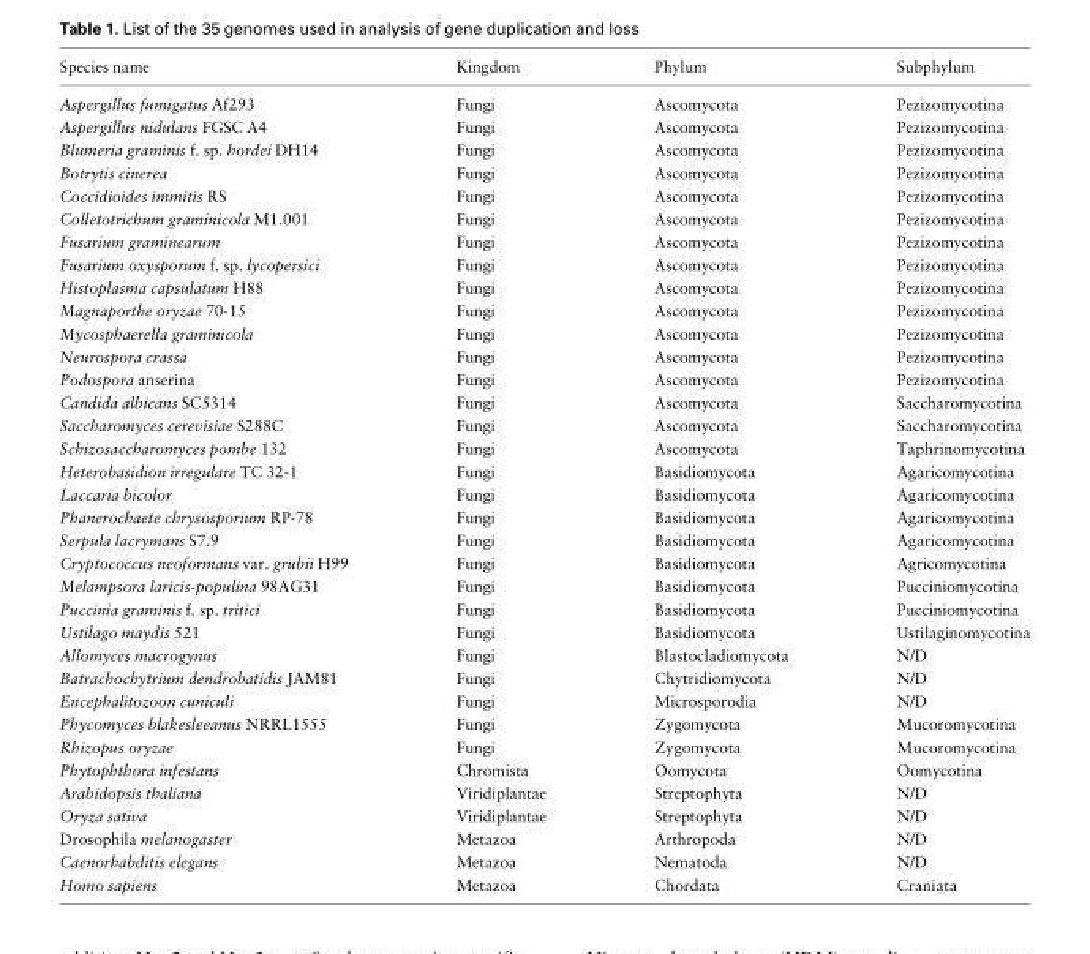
<table><thead><tr><td>Species name</td><td>Kingdom</td><td>Phylum</td><td>Subphylum</td></tr></thead><tbody><tr><td>Aspergillus fumigatus Af293</td><td>Fungi</td><td>Ascomycota</td><td>Pezizomycotina</td></tr><tr><td>Aspergillus nidulans FGSC A4</td><td>Fungi</td><td>Ascomycota</td><td>Pezizomycotina</td></tr><tr><td>Blumeria graminis f. sp. hordei DH14</td><td>Fungi</td><td>Ascomycota</td><td>Pezizomycotina</td></tr><tr><td>Botrytis cinerea</td><td>Fungi</td><td>Ascomycota</td><td>Pezizomycotina</td></tr><tr><td>Coccidioides immitis RS</td><td>Fungi</td><td>Ascomycota</td><td>Pezizomycotina</td></tr><tr><td>Colletotrichum graminicola M1.001</td><td>Fungi</td><td>Ascomycota</td><td>Pezizomycotina</td></tr><tr><td>Fusarium graminearum</td><td>Fungi</td><td>Ascomycota</td><td>Pezizomycotina</td></tr><tr><td>Fusarium oxysporum f. sp. lycopersici</td><td>Fungi</td><td>Ascomycota</td><td>Pezizomycotina</td></tr><tr><td>Histoplasma capsulatum H88</td><td>Fungi</td><td>Ascomycota</td><td>Pezizomycotina</td></tr><tr><td>Magnaporthe oryzae 70-15</td><td>Fungi</td><td>Ascomycota</td><td>Pezizomycotina</td></tr><tr><td>Mycosphaerella graminicola</td><td>Fungi</td><td>Ascomycota</td><td>Pezizomycotina</td></tr><tr><td>Neurospora crassa</td><td>Fungi</td><td>Ascomycota</td><td>Pezizomycotina</td></tr><tr><td>Podospora anserina</td><td>Fungi</td><td>Ascomycota</td><td>Pezizomycotina</td></tr><tr><td>Candida albicans SC5314</td><td>Fungi</td><td>Ascomycota</td><td>Saccharomycotina</td></tr><tr><td>Saccharomyces cerevisiae S288C</td><td>Fungi</td><td>Ascomycota</td><td>Saccharomycotina</td></tr><tr><td>Schizosaccharomyces pombe 132</td><td>Fungi</td><td>Ascomycota</td><td>Taphrinomycotina</td></tr><tr><td>Heterobasidion irregulare TC 32-1</td><td>Fungi</td><td>Basidiomycota</td><td>Agaricomycotina</td></tr><tr><td>Laccaria bicolor</td><td>Fungi</td><td>Basidiomycota</td><td>Agaricomycotina</td></tr><tr><td>Phanerochaete chrysosporium RP-78</td><td>Fungi</td><td>Basidiomycota</td><td>Agaricomycotina</td></tr><tr><td>Serpula lacrymans S7.9</td><td>Fungi</td><td>Basidiomycota</td><td>Agaricomycotina</td></tr><tr><td>Cryptococcus neoformans var. grubii H99</td><td>Fungi</td><td>Basidiomycota</td><td>Agricomycotina</td></tr><tr><td>Melampsora laricis-populina 98AG31</td><td>Fungi</td><td>Basidiomycota</td><td>Pucciniomycotina</td></tr><tr><td>Puccinia graminis f. sp. tritici</td><td>Fungi</td><td>Basidiomycota</td><td>Pucciniomycotina</td></tr><tr><td>Ustilago maydis 521</td><td>Fungi</td><td>Basidiomycota</td><td>Ustilaginomycotina</td></tr><tr><td>Allomyces macrogynus</td><td>Fungi</td><td>Blastocladiomycota</td><td>N/D</td></tr><tr><td>Batrachochytrium dendrobatidis JAM81</td><td>Fungi</td><td>Chytridiomycota</td><td>N/D</td></tr><tr><td>Encephalitozoon cuniculi</td><td>Fungi</td><td>Microsporodia</td><td>N/D</td></tr><tr><td>Phycomyces blakesleeanus NRRL1555</td><td>Fungi</td><td>Zygomycota</td><td>Mucoromycotina</td></tr><tr><td>Rhizopus oryzae</td><td>Fungi</td><td>Zygomycota</td><td>Mucoromycotina</td></tr><tr><td>Phytophthora infestans</td><td>Chromista</td><td>Oomycota</td><td>Oomycotina</td></tr><tr><td>Arabidopsis thaliana</td><td>Viridiplantae</td><td>Streptophyta</td><td>N/D</td></tr><tr><td>Oryza sativa</td><td>Viridiplantae</td><td>Streptophyta</td><td>N/D</td></tr><tr><td>Drosophila melanogaster</td><td>Metazoa</td><td>Arthropoda</td><td>N/D</td></tr><tr><td>Caenorhabditis elegans</td><td>Metazoa</td><td>Nematoda</td><td>N/D</td></tr><tr><td>Homo sapiens</td><td>Metazoa</td><td>Chordata</td><td>Craniata</td></tr></tbody></table>